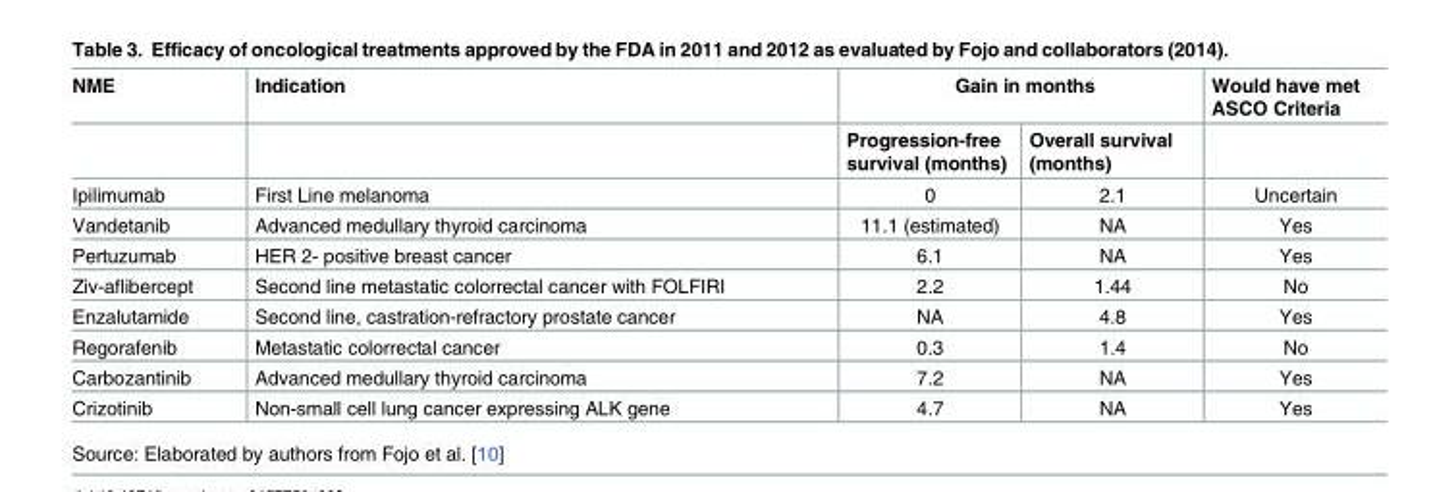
<table><thead><tr><td rowspan="2">NME</td><td rowspan="2">Indication</td><td colspan="2">Gain in months</td><td rowspan="2">Would have met ASCO Criteria</td></tr><tr><td>Progression-free survival (months)</td><td>Overall survival (months)</td></tr></thead><tbody><tr><td>Ipilimumab</td><td>First Line melanoma</td><td>0</td><td>2.1</td><td>Uncertain</td></tr><tr><td>Vandetanib</td><td>Advanced medullary thyroid carcinoma</td><td>11.1 (estimated)</td><td>NA</td><td>Yes</td></tr><tr><td>Pertuzumab</td><td>HER 2- positive breast cancer</td><td>6.1</td><td>NA</td><td>Yes</td></tr><tr><td>Ziv-aflibercept</td><td>Second line metastatic colorrectal cancer with FOLFIRI</td><td>2.2</td><td>1.44</td><td>No</td></tr><tr><td>Enzalutamide</td><td>Second line, castration-refractory prostate cancer</td><td>NA</td><td>4.8</td><td>Yes</td></tr><tr><td>Regorafenib</td><td>Metastatic colorrectal cancer</td><td>0.3</td><td>1.4</td><td>No</td></tr><tr><td>Carbozantinib</td><td>Advanced medullary thyroid carcinoma</td><td>7.2</td><td>NA</td><td>Yes</td></tr><tr><td>Crizotinib</td><td>Non-small cell lung cancer expressing ALK gene</td><td>4.7</td><td>NA</td><td>Yes</td></tr></tbody></table>